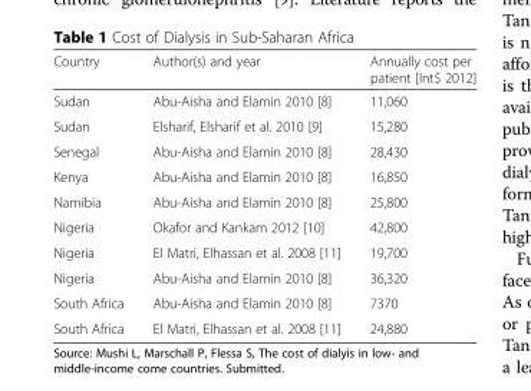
<table><thead><tr><td>Country</td><td>Author(s) and year</td><td>Annually cost per patient [Int$ 2012]</td></tr></thead><tbody><tr><td>Sudan</td><td>Abu-Aisha and Elamin 2010 [8]</td><td>11,060</td></tr><tr><td>Sudan</td><td>Elsharif, Elsharif et al. 2010 [9]</td><td>15,280</td></tr><tr><td>Senegal</td><td>Abu-Aisha and Elamin 2010 [8]</td><td>28,430</td></tr><tr><td>Kenya</td><td>Abu-Aisha and Elamin 2010 [8]</td><td>16,850</td></tr><tr><td>Namibia</td><td>Abu-Aisha and Elamin 2010 [8]</td><td>25,800</td></tr><tr><td>Nigeria</td><td>Okafor and Kankam 2012 [10]</td><td>42,800</td></tr><tr><td>Nigeria</td><td>El Matri, Elhassan et al. 2008 [11]</td><td>19,700</td></tr><tr><td>Nigeria</td><td>Abu-Aisha and Elamin 2010 [8]</td><td>36,320</td></tr><tr><td>South Africa</td><td>Abu-Aisha and Elamin 2010 [8]</td><td>7370</td></tr><tr><td>South Africa</td><td>El Matri, Elhassan et al. 2008 [11]</td><td>24,880</td></tr></tbody></table>